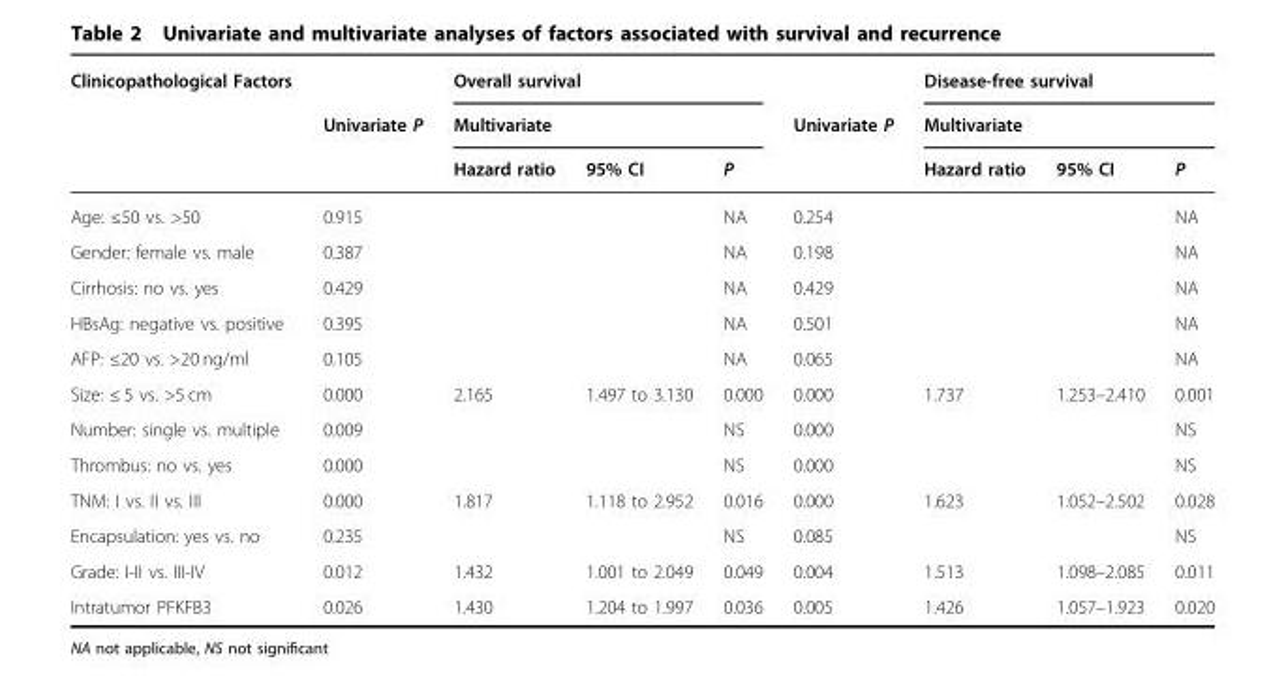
<table><thead><tr><td rowspan="3">Clinicopathological Factors</td><td rowspan="3">Univariate P</td><td rowspan="2" colspan="3">Overall survival Multivariate</td><td rowspan="3">Univariate P</td><td rowspan="2" colspan="3">Disease-free survival Multivariate</td></tr><tr></tr><tr><td>Hazard ratio</td><td>95% CI</td><td>P</td><td>Hazard ratio</td><td>95% CI</td><td>P</td></tr></thead><tbody><tr><td>Age: ≤50 vs. &gt;50</td><td>0.915</td><td></td><td></td><td>NA</td><td>0.254</td><td></td><td></td><td>NA</td></tr><tr><td>Gender: female vs. male</td><td>0.387</td><td></td><td></td><td>NA</td><td>0.198</td><td></td><td></td><td>NA</td></tr><tr><td>Cirrhosis: no vs. yes</td><td>0.429</td><td></td><td></td><td>NA</td><td>0.429</td><td></td><td></td><td>NA</td></tr><tr><td>HBsAg: negative vs. positive</td><td>0.395</td><td></td><td></td><td>NA</td><td>0.501</td><td></td><td></td><td>NA</td></tr><tr><td>AFP: ≤20 vs. &gt;20 ng/ml</td><td>0.105</td><td></td><td></td><td>NA</td><td>0.065</td><td></td><td></td><td>NA</td></tr><tr><td>Size: ≤ 5 vs. &gt;5 cm</td><td>0.000</td><td>2.165</td><td>1.497 to 3.130</td><td>0.000</td><td>0.000</td><td>1.737</td><td>1.253–2.410</td><td>0.001</td></tr><tr><td>Number: single vs. multiple</td><td>0.009</td><td></td><td></td><td>NS</td><td>0.000</td><td></td><td></td><td>NS</td></tr><tr><td>Thrombus: no vs. yes</td><td>0.000</td><td></td><td></td><td>NS</td><td>0.000</td><td></td><td></td><td>NS</td></tr><tr><td>TNM: I vs. II vs. III</td><td>0.000</td><td>1.817</td><td>1.118 to 2.952</td><td>0.016</td><td>0.000</td><td>1.623</td><td>1.052–2.502</td><td>0.028</td></tr><tr><td>Encapsulation: yes vs. no</td><td>0.235</td><td></td><td></td><td>NS</td><td>0.085</td><td></td><td></td><td>NS</td></tr><tr><td>Grade: I-II vs. III-IV</td><td>0.012</td><td>1.432</td><td>1.001 to 2.049</td><td>0.049</td><td>0.004</td><td>1.513</td><td>1.098–2.085</td><td>0.011</td></tr><tr><td>Intratumor PFKFB3</td><td>0.026</td><td>1.430</td><td>1.204 to 1.997</td><td>0.036</td><td>0.005</td><td>1.426</td><td>1.057–1.923</td><td>0.020</td></tr></tbody></table>